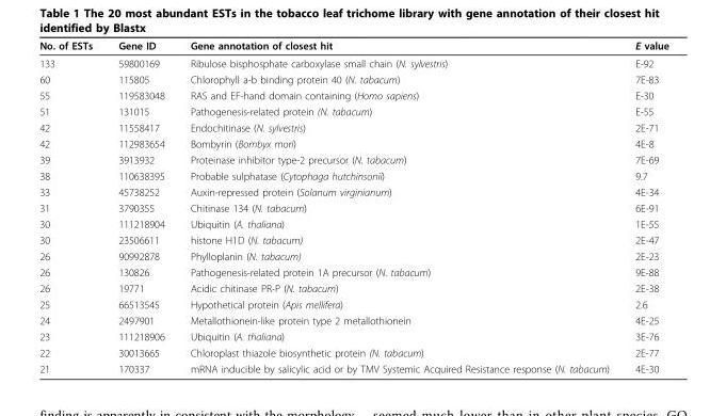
<table><thead><tr><td>No. of ESTs</td><td>Gene ID</td><td>Gene annotation of closest hit</td><td>E value</td></tr></thead><tbody><tr><td>133</td><td>59800169</td><td>Ribulose bisphosphate carboxylase small chain (N. sylvestris)</td><td>E-92</td></tr><tr><td>60</td><td>115805</td><td>Chlorophyll a-b binding protein 40 (N. tabacum)</td><td>7E-83</td></tr><tr><td>55</td><td>119583048</td><td>RAS and EF-hand domain containing (Homo sapiens)</td><td>E-30</td></tr><tr><td>51</td><td>131015</td><td>Pathogenesis-related protein (N. tabacum)</td><td>E-55</td></tr><tr><td>42</td><td>11558417</td><td>Endochitinase (N. sylvestris)</td><td>2E-71</td></tr><tr><td>42</td><td>112983654</td><td>Bombyrin (Bombyx mori)</td><td>4E-8</td></tr><tr><td>39</td><td>3913932</td><td>Proteinase inhibitor type-2 precursor (N. tabacum)</td><td>7E-69</td></tr><tr><td>38</td><td>110638395</td><td>Probable sulphatase (Cytophaga hutchinsonii)</td><td>9.7</td></tr><tr><td>33</td><td>45738252</td><td>Auxin-repressed protein (Solanum virginianum)</td><td>4E-34</td></tr><tr><td>31</td><td>3790355</td><td>Chitinase 134 (N. tabacum)</td><td>6E-91</td></tr><tr><td>30</td><td>111218904</td><td>Ubiquitin (A. thaliana)</td><td>1E-55</td></tr><tr><td>30</td><td>23506611</td><td>histone H1D (N. tabacum)</td><td>2E-47</td></tr><tr><td>26</td><td>90992878</td><td>Phylloplanin (N. tabacum)</td><td>2E-23</td></tr><tr><td>26</td><td>130826</td><td>Pathogenesis-related protein 1A precursor (N. tabacum)</td><td>9E-88</td></tr><tr><td>26</td><td>19771</td><td>Acidic chitinase PR-P (N. tabacum)</td><td>2E-38</td></tr><tr><td>25</td><td>66513545</td><td>Hypothetical protein (Apis mellifera)</td><td>2.6</td></tr><tr><td>24</td><td>2497901</td><td>Metallothionein-like protein type 2 metallothionein</td><td>4E-25</td></tr><tr><td>23</td><td>111218906</td><td>Ubiquitin (A. thaliana)</td><td>3E-76</td></tr><tr><td>22</td><td>30013665</td><td>Chloroplast thiazole biosynthetic protein (N. tabacum)</td><td>2E-77</td></tr><tr><td>21</td><td>170337</td><td>mRNA inducible by salicylic acid or by TMV Systemic Acquired Resistance response (N. tabacum)</td><td>4E-30</td></tr></tbody></table>